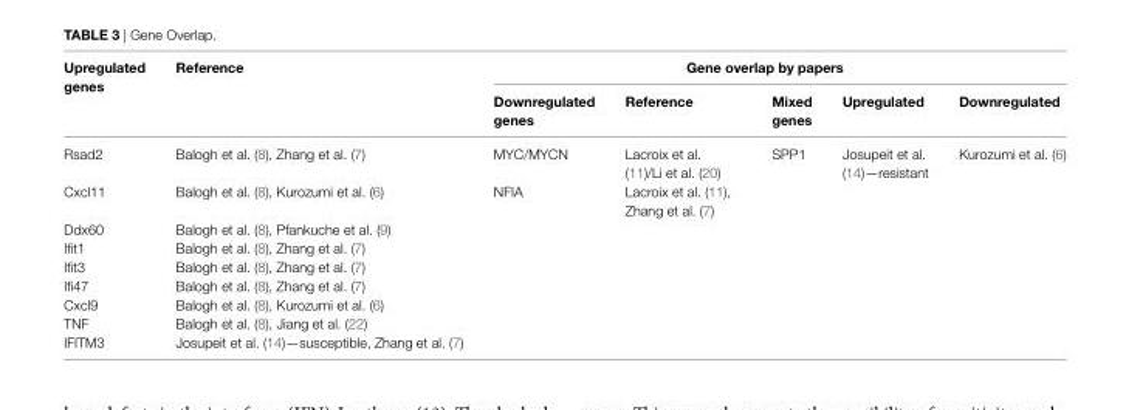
<table><thead><tr><td rowspan="2">Upregulated genes</td><td rowspan="2">Reference</td><td colspan="5">Gene overlap by papers</td></tr><tr><td>Downregulated genes</td><td>Reference</td><td>Mixed genes</td><td>Upregulated</td><td>Downregulated</td></tr></thead><tbody><tr><td>Rsad2</td><td>Balogh et al. (8), Zhang et al. (7)</td><td>MYC/MYCN</td><td>Lacroix et al. (11)/Li et al. (20)</td><td>SPP1</td><td>Josupeit et al. (14)—resistant</td><td>Kurozumi et al. (6)</td></tr><tr><td>Cxcl11</td><td>Balogh et al. (8), Kurozumi et al. (6)</td><td>NFIA</td><td>Lacroix et al. (11), Zhang et al. (7)</td><td></td><td></td><td></td></tr><tr><td>Ddx60</td><td>Balogh et al. (8), Pfankuche et al. (9)</td><td></td><td></td><td></td><td></td><td></td></tr><tr><td>Ifit1</td><td>Balogh et al. (8), Zhang et al. (7)</td><td></td><td></td><td></td><td></td><td></td></tr><tr><td>Ifit3</td><td>Balogh et al. (8), Zhang et al. (7)</td><td></td><td></td><td></td><td></td><td></td></tr><tr><td>Ifi47</td><td>Balogh et al. (8), Zhang et al. (7)</td><td></td><td></td><td></td><td></td><td></td></tr><tr><td>Cxcl9</td><td>Balogh et al. (8), Kurozumi et al. (6)</td><td></td><td></td><td></td><td></td><td></td></tr><tr><td>TNF</td><td>Balogh et al. (8), Jiang et al. (22)</td><td></td><td></td><td></td><td></td><td></td></tr><tr><td>IFITM3</td><td>Josupeit et al. (14)—susceptible, Zhang et al. (7)</td><td></td><td></td><td></td><td></td><td></td></tr></tbody></table>